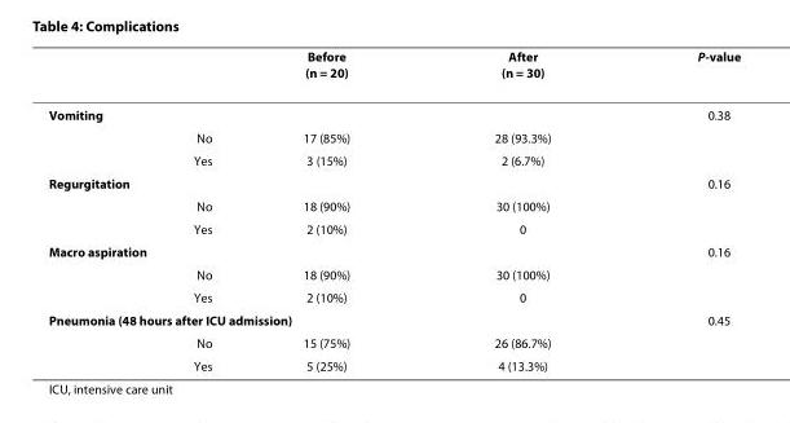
<table><thead><tr><td></td><td>Before (n = 20)</td><td>After (n = 30)</td><td>P-value</td></tr></thead><tbody><tr><td colspan="3">Vomiting</td><td>0.38</td></tr><tr><td>No</td><td>17 (85%)</td><td>28 (93.3%)</td><td></td></tr><tr><td>Yes</td><td>3 (15%)</td><td>2 (6.7%)</td><td></td></tr><tr><td colspan="3">Regurgitation</td><td>0.16</td></tr><tr><td>No</td><td>18 (90%)</td><td>30 (100%)</td><td></td></tr><tr><td>Yes</td><td>2 (10%)</td><td>0</td><td></td></tr><tr><td colspan="3">Macro aspiration</td><td>0.16</td></tr><tr><td>No</td><td>18 (90%)</td><td>30 (100%)</td><td></td></tr><tr><td>Yes</td><td>2 (10%)</td><td>0</td><td></td></tr><tr><td colspan="3">Pneumonia (48 hours after ICU admission)</td><td>0.45</td></tr><tr><td>No</td><td>15 (75%)</td><td>26 (86.7%)</td><td></td></tr><tr><td>Yes</td><td>5 (25%)</td><td>4 (13.3%)</td><td></td></tr></tbody></table>